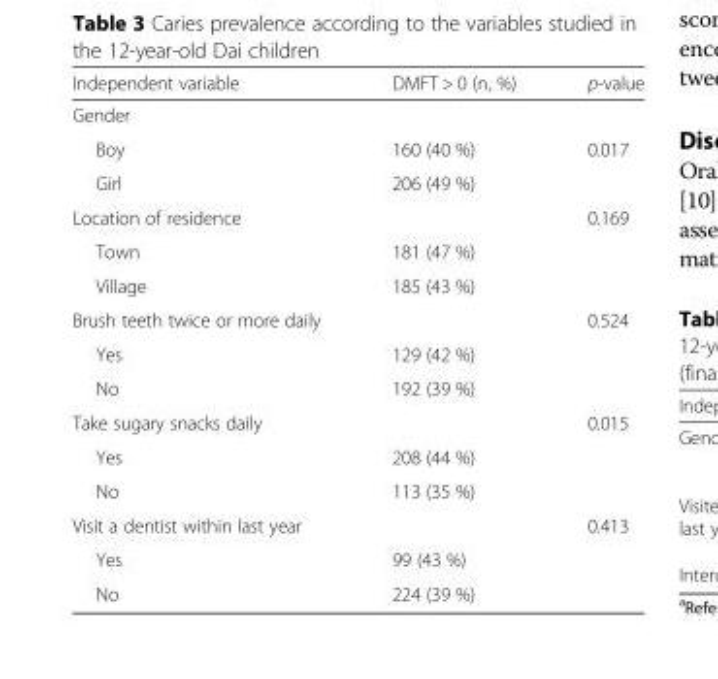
<table><thead><tr><td>Independent variable</td><td>DMFT &gt; 0 (n, %)</td><td>p-value</td></tr></thead><tbody><tr><td colspan="3">Gender</td></tr><tr><td>Boy</td><td>160 (40 %)</td><td>0.017</td></tr><tr><td>Girl</td><td>206 (49 %)</td><td></td></tr><tr><td>Location of residence</td><td></td><td>0.169</td></tr><tr><td>Town</td><td>181 (47 %)</td><td></td></tr><tr><td>Village</td><td>185 (43 %)</td><td></td></tr><tr><td>Brush teeth twice or more daily</td><td></td><td>0.524</td></tr><tr><td>Yes</td><td>129 (42 %)</td><td></td></tr><tr><td>No</td><td>192 (39 %)</td><td></td></tr><tr><td>Take sugary snacks daily</td><td></td><td>0.015</td></tr><tr><td>Yes</td><td>208 (44 %)</td><td></td></tr><tr><td>No</td><td>113 (35 %)</td><td></td></tr><tr><td>Visit a dentist within last year</td><td></td><td>0.413</td></tr><tr><td>Yes</td><td>99 (43 %)</td><td></td></tr><tr><td>No</td><td>224 (39 %)</td><td></td></tr></tbody></table>